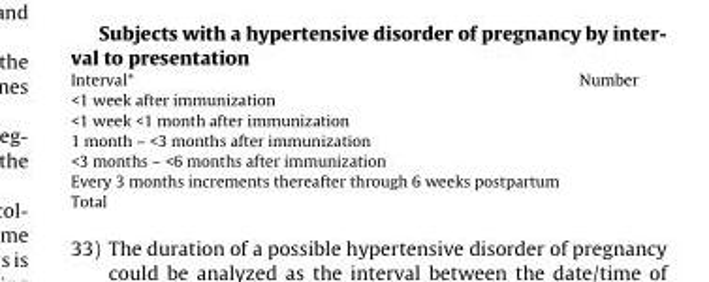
<table><tbody><tr><td>Interval*</td><td>Number</td></tr><tr><td colspan="2">&lt;1 week after immunization</td></tr><tr><td colspan="2">&lt;1 week &lt;1 month after immunization</td></tr><tr><td colspan="2">1 month – &lt;3 months after immunization</td></tr><tr><td colspan="2">&lt;3 months – &lt;6 months after immunization</td></tr><tr><td colspan="2">Every 3 months increments thereafter through 6 weeks postpartum</td></tr><tr><td colspan="2">Total</td></tr></tbody></table>